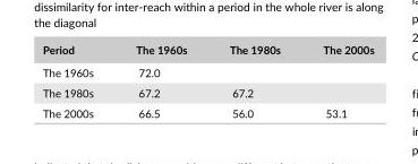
<table><thead><tr><td>Period</td><td>The 1960s</td><td>The 1980s</td><td>The 2000s</td></tr></thead><tbody><tr><td>The 1960s</td><td>72.0</td><td></td><td></td></tr><tr><td>The 1980s</td><td>67.2</td><td>67.2</td><td></td></tr><tr><td>The 2000s</td><td>66.5</td><td>56.0</td><td>53.1</td></tr></tbody></table>